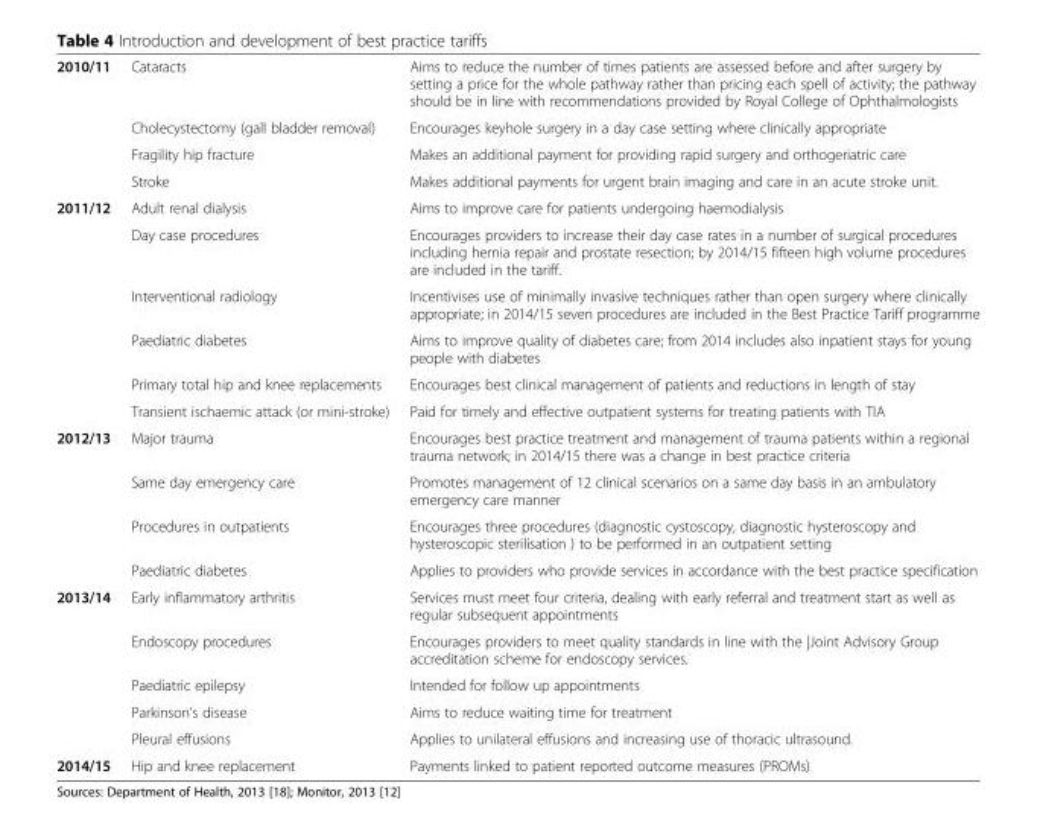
<table><tbody><tr><td rowspan="4">2010/11</td><td>Cataracts</td><td>Aims to reduce the number of times patients are assessed before and after surgery by setting a price for the whole pathway rather than pricing each spell of activity; the pathway should be in line with recommendations provided by Royal College of Ophthalmologists</td></tr><tr><td>Cholecystectomy (gall bladder removal)</td><td>Encourages keyhole surgery in a day case setting where clinically appropriate</td></tr><tr><td>Fragility hip fracture</td><td>Makes an additional payment for providing rapid surgery and orthogeriatric care</td></tr><tr><td>Stroke</td><td>Makes additional payments for urgent brain imaging and care in an acute stroke unit.</td></tr><tr><td rowspan="6">2011/12</td><td>Adult renal dialysis</td><td>Aims to improve care for patients undergoing haemodialysis</td></tr><tr><td>Day case procedures</td><td>Encourages providers to increase their day case rates in a number of surgical procedures including hernia repair and prostate resection; by 2014/15 fifteen high volume procedures are included in the tariff.</td></tr><tr><td>Interventional radiology</td><td>Incentivises use of minimally invasive techniques rather than open surgery where clinically appropriate; in 2014/15 seven procedures are included in the Best Practice Tariff programme</td></tr><tr><td>Paediatric diabetes</td><td>Aims to improve quality of diabetes care; from 2014 includes also inpatient stays for young people with diabetes</td></tr><tr><td>Primary total hip and knee replacements</td><td>Encourages best clinical management of patients and reductions in length of stay</td></tr><tr><td>Transient ischaemic attack (or mini-stroke)</td><td>Paid for timely and effective outpatient systems for treating patients with TIA</td></tr><tr><td rowspan="4">2012/13</td><td>Major trauma</td><td>Encourages best practice treatment and management of trauma patients within a regional trauma network; in 2014/15 there was a change in best practice criteria</td></tr><tr><td>Same day emergency care</td><td>Promotes management of 12 clinical scenarios on a same day basis in an ambulatory emergency care manner</td></tr><tr><td>Procedures in outpatients</td><td>Encourages three procedures (diagnostic cystoscopy, diagnostic hysteroscopy and hysteroscopic sterilisation ) to be performed in an outpatient setting</td></tr><tr><td>Paediatric diabetes</td><td>Applies to providers who provide services in accordance with the best practice specification</td></tr><tr><td rowspan="5">2013/14</td><td>Early inflammatory arthritis</td><td>Services must meet four criteria, dealing with early referral and treatment start as well as regular subsequent appointments</td></tr><tr><td>Endoscopy procedures</td><td>Encourages providers to meet quality standards in line with the |Joint Advisory Group accreditation scheme for endoscopy services.</td></tr><tr><td>Paediatric epilepsy</td><td>Intended for follow up appointments</td></tr><tr><td>Parkinson’s disease</td><td>Aims to reduce waiting time for treatment</td></tr><tr><td>Pleural effusions</td><td>Applies to unilateral effusions and increasing use of thoracic ultrasound.</td></tr><tr><td>2014/15</td><td>Hip and knee replacement</td><td>Payments linked to patient reported outcome measures (PROMs)</td></tr></tbody></table>